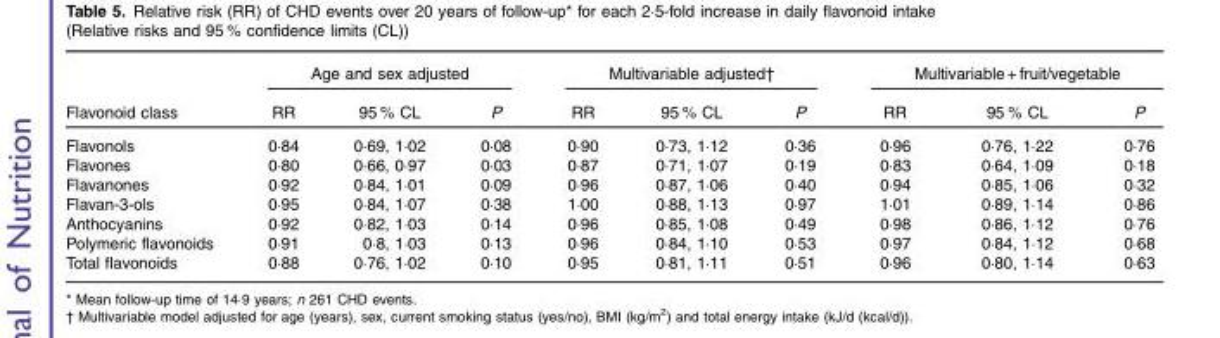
<table><thead><tr><td rowspan="2">Flavonoid class</td><td colspan="3">Age and sex adjusted</td><td colspan="3">Multivariable adjusted†</td><td colspan="3">Multivariable + fruit/vegetable</td></tr><tr><td>RR</td><td>95 % CL</td><td>P</td><td>RR</td><td>95 % CL</td><td>P</td><td>RR</td><td>95 % CL</td><td>P</td></tr></thead><tbody><tr><td>Flavonols</td><td>0·84</td><td>0·69, 1·02</td><td>0·08</td><td>0·90</td><td>0·73, 1·12</td><td>0·36</td><td>0·96</td><td>0·76, 1·22</td><td>0·76</td></tr><tr><td>Flavones</td><td>0·80</td><td>0·66, 0·97</td><td>0·03</td><td>0·87</td><td>0·71, 1·07</td><td>0·19</td><td>0·83</td><td>0·64, 1·09</td><td>0·18</td></tr><tr><td>Flavanones</td><td>0·92</td><td>0·84, 1·01</td><td>0·09</td><td>0·96</td><td>0·87, 1·06</td><td>0·40</td><td>0·94</td><td>0·85, 1·06</td><td>0·32</td></tr><tr><td>Flavan-3-ols</td><td>0·95</td><td>0·84, 1·07</td><td>0·38</td><td>1·00</td><td>0·88, 1·13</td><td>0·97</td><td>1·01</td><td>0·89, 1·14</td><td>0·86</td></tr><tr><td>Anthocyanins</td><td>0·92</td><td>0·82, 1·03</td><td>0·14</td><td>0·96</td><td>0·85, 1·08</td><td>0·49</td><td>0·98</td><td>0·86, 1·12</td><td>0·76</td></tr><tr><td>Polymeric flavonoids</td><td>0·91</td><td>0·8, 1·03</td><td>0·13</td><td>0·96</td><td>0·84, 1·10</td><td>0·53</td><td>0·97</td><td>0·84, 1·12</td><td>0·68</td></tr><tr><td>Total flavonoids</td><td>0·88</td><td>0·76, 1·02</td><td>0·10</td><td>0·95</td><td>0·81, 1·11</td><td>0·51</td><td>0·96</td><td>0·80, 1·14</td><td>0·63</td></tr></tbody></table>